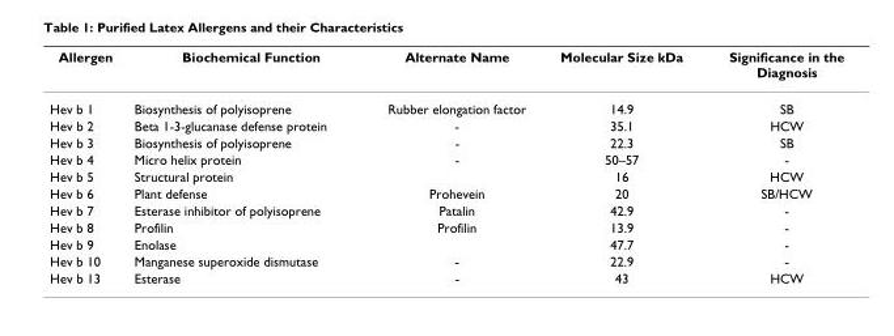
<table><thead><tr><td>Allergen</td><td>Biochemical Function</td><td>Alternate Name</td><td>Molecular Size kDa</td><td>Significance in the Diagnosis</td></tr></thead><tbody><tr><td>Hev b 1</td><td>Biosynthesis of polyisoprene</td><td>Rubber elongation factor</td><td>14.9</td><td>SB</td></tr><tr><td>Hev b 2</td><td>Beta 1-3-glucanase defense protein</td><td>-</td><td>35.1</td><td>HCW</td></tr><tr><td>Hev b 3</td><td>Biosynthesis of polyisoprene</td><td>-</td><td>22.3</td><td>SB</td></tr><tr><td>Hev b 4</td><td>Micro helix protein</td><td>-</td><td>50–57</td><td>-</td></tr><tr><td>Hev b 5</td><td>Structural protein</td><td></td><td>16</td><td>HCW</td></tr><tr><td>Hev b 6</td><td>Plant defense</td><td>Prohevein</td><td>20</td><td>SB/HCW</td></tr><tr><td>Hev b 7</td><td>Esterase inhibitor of polyisoprene</td><td>Patalin</td><td>42.9</td><td>-</td></tr><tr><td>Hev b 8</td><td>Profilin</td><td>Profilin</td><td>13.9</td><td>-</td></tr><tr><td>Hev b 9</td><td>Enolase</td><td></td><td>47.7</td><td>-</td></tr><tr><td>Hev b 10</td><td>Manganese superoxide dismutase</td><td>-</td><td>22.9</td><td>-</td></tr><tr><td>Hev b 13</td><td>Esterase</td><td>-</td><td>43</td><td>HCW</td></tr></tbody></table>